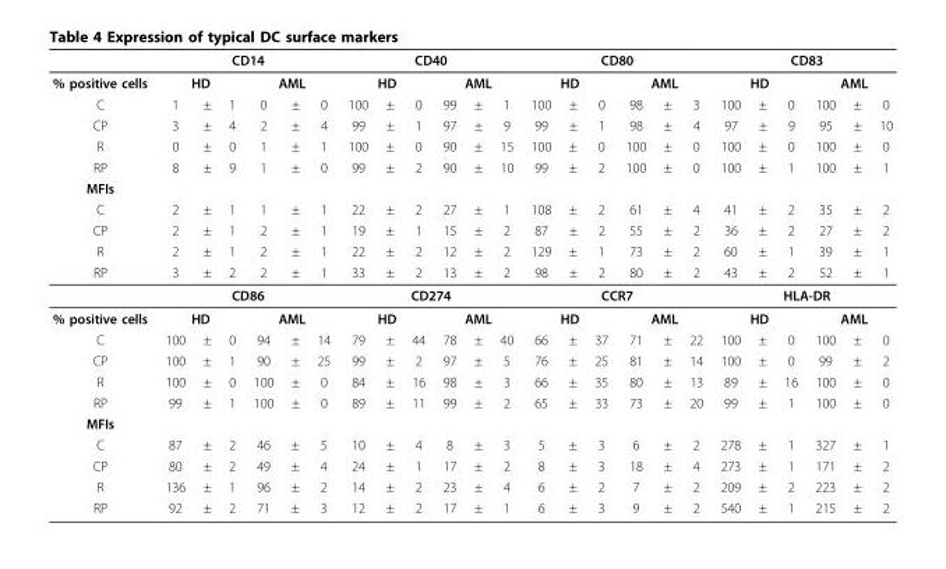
<table><thead><tr><td rowspan="3">% positive cells C</td><td colspan="6">CD14</td><td colspan="6">CD40</td><td colspan="6">CD80</td><td colspan="6">CD83</td></tr><tr><td colspan="3">HD</td><td colspan="3">AML</td><td colspan="3">HD</td><td colspan="3">AML</td><td colspan="3">HD</td><td colspan="3">AML</td><td colspan="3">HD</td><td colspan="3">AML</td></tr><tr><td>1</td><td>±</td><td>1</td><td>0</td><td>±</td><td>0</td><td>100</td><td>±</td><td>0</td><td>99</td><td>±</td><td>1</td><td>100</td><td>±</td><td>0</td><td>98</td><td>±</td><td>3</td><td>100</td><td>±</td><td>0</td><td>100</td><td>±</td><td>0</td></tr></thead><tbody><tr><td>CP</td><td>3</td><td>±</td><td>4</td><td>2</td><td>±</td><td>4</td><td>99</td><td>±</td><td>1</td><td>97</td><td>±</td><td>9</td><td>99</td><td>±</td><td>1</td><td>98</td><td>±</td><td>4</td><td>97</td><td>±</td><td>9</td><td>95</td><td>±</td><td>10</td></tr><tr><td>R</td><td>0</td><td>±</td><td>0</td><td>1</td><td>±</td><td>1</td><td>100</td><td>±</td><td>0</td><td>90</td><td>±</td><td>15</td><td>100</td><td>±</td><td>0</td><td>100</td><td>±</td><td>0</td><td>100</td><td>±</td><td>0</td><td>100</td><td>±</td><td>0</td></tr><tr><td>RP</td><td>8</td><td>±</td><td>9</td><td>1</td><td>±</td><td>0</td><td>99</td><td>±</td><td>2</td><td>90</td><td>±</td><td>10</td><td>99</td><td>±</td><td>2</td><td>100</td><td>±</td><td>0</td><td>100</td><td>±</td><td>1</td><td>100</td><td>±</td><td>1</td></tr><tr><td colspan="25">MFIs</td></tr><tr><td>C</td><td>2</td><td>±</td><td>1</td><td>1</td><td>±</td><td>1</td><td>22</td><td>±</td><td>2</td><td>27</td><td>±</td><td>1</td><td>108</td><td>±</td><td>2</td><td>61</td><td>±</td><td>4</td><td>41</td><td>±</td><td>2</td><td>35</td><td>±</td><td>2</td></tr><tr><td>CP</td><td>2</td><td>±</td><td>1</td><td>2</td><td>±</td><td>1</td><td>19</td><td>±</td><td>1</td><td>15</td><td>±</td><td>2</td><td>87</td><td>±</td><td>2</td><td>55</td><td>±</td><td>2</td><td>36</td><td>±</td><td>2</td><td>27</td><td>±</td><td>2</td></tr><tr><td>R</td><td>2</td><td>±</td><td>1</td><td>2</td><td>±</td><td>1</td><td>22</td><td>±</td><td>2</td><td>12</td><td>±</td><td>2</td><td>129</td><td>±</td><td>1</td><td>73</td><td>±</td><td>2</td><td>60</td><td>±</td><td>1</td><td>39</td><td>±</td><td>1</td></tr><tr><td rowspan="2">RP</td><td>3</td><td>±</td><td>2</td><td>2</td><td>±</td><td>1</td><td>33</td><td>±</td><td>2</td><td>13</td><td>±</td><td>2</td><td>98</td><td>±</td><td>2</td><td>80</td><td>±</td><td>2</td><td>43</td><td>±</td><td>2</td><td>52</td><td>±</td><td>1</td></tr><tr><td colspan="6">CD86</td><td colspan="6">CD274</td><td colspan="6">CCR7</td><td colspan="6">HLA-DR</td></tr><tr><td>% positive cells</td><td colspan="3">HD</td><td colspan="3">AML</td><td colspan="3">HD</td><td colspan="3">AML</td><td colspan="3">HD</td><td colspan="3">AML</td><td colspan="3">HD</td><td colspan="3">AML</td></tr><tr><td>C</td><td>100</td><td>±</td><td>0</td><td>94</td><td>±</td><td>14</td><td>79</td><td>±</td><td>44</td><td>78</td><td>±</td><td>40</td><td>66</td><td>±</td><td>37</td><td>71</td><td>±</td><td>22</td><td>100</td><td>±</td><td>0</td><td>100</td><td>±</td><td>0</td></tr><tr><td>CP</td><td>100</td><td>±</td><td>1</td><td>90</td><td>±</td><td>25</td><td>99</td><td>±</td><td>2</td><td>97</td><td>±</td><td>5</td><td>76</td><td>±</td><td>25</td><td>81</td><td>±</td><td>14</td><td>100</td><td>±</td><td>0</td><td>99</td><td>±</td><td>2</td></tr><tr><td>R</td><td>100</td><td>±</td><td>0</td><td>100</td><td>±</td><td>0</td><td>84</td><td>±</td><td>16</td><td>98</td><td>±</td><td>3</td><td>66</td><td>±</td><td>35</td><td>80</td><td>±</td><td>13</td><td>89</td><td>±</td><td>16</td><td>100</td><td>±</td><td>0</td></tr><tr><td>RP</td><td>99</td><td>±</td><td>1</td><td>100</td><td>±</td><td>0</td><td>89</td><td>±</td><td>11</td><td>99</td><td>±</td><td>2</td><td>65</td><td>±</td><td>33</td><td>73</td><td>±</td><td>20</td><td>99</td><td>±</td><td>1</td><td>100</td><td>±</td><td>0</td></tr><tr><td colspan="25">MFIs</td></tr><tr><td>C</td><td>87</td><td>±</td><td>2</td><td>46</td><td>±</td><td>5</td><td>10</td><td>±</td><td>4</td><td>8</td><td>±</td><td>3</td><td>5</td><td>±</td><td>3</td><td>6</td><td>±</td><td>2</td><td>278</td><td>±</td><td>1</td><td>327</td><td>±</td><td>1</td></tr><tr><td>CP</td><td>80</td><td>±</td><td>2</td><td>49</td><td>±</td><td>4</td><td>24</td><td>±</td><td>1</td><td>17</td><td>±</td><td>2</td><td>8</td><td>±</td><td>3</td><td>18</td><td>±</td><td>4</td><td>273</td><td>±</td><td>1</td><td>171</td><td>±</td><td>2</td></tr><tr><td>R</td><td>136</td><td>±</td><td>1</td><td>96</td><td>±</td><td>2</td><td>14</td><td>±</td><td>2</td><td>23</td><td>±</td><td>4</td><td>6</td><td>±</td><td>2</td><td>7</td><td>±</td><td>2</td><td>209</td><td>±</td><td>2</td><td>223</td><td>±</td><td>2</td></tr><tr><td>RP</td><td>92</td><td>±</td><td>2</td><td>71</td><td>±</td><td>3</td><td>12</td><td>±</td><td>2</td><td>17</td><td>±</td><td>1</td><td>6</td><td>±</td><td>3</td><td>9</td><td>±</td><td>2</td><td>540</td><td>±</td><td>1</td><td>215</td><td>±</td><td>2</td></tr></tbody></table>